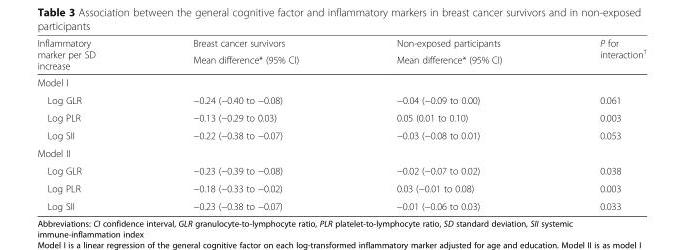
<table><thead><tr><td rowspan="2">Inflammatory marker per SD increase</td><td rowspan="2">Breast cancer survivors Mean difference* (95% CI)</td><td rowspan="2">Non-exposed participants Mean difference* (95% CI)</td><td rowspan="2">P for interaction<sup>†</sup></td></tr><tr></tr></thead><tbody><tr><td colspan="4">Model I</td></tr><tr><td>Log GLR</td><td>−0.24 (−0.40 to −0.08)</td><td>−0.04 (−0.09 to 0.00)</td><td>0.061</td></tr><tr><td>Log PLR</td><td>−0.13 (−0.29 to 0.03)</td><td>0.05 (0.01 to 0.10)</td><td>0.003</td></tr><tr><td>Log SII</td><td>−0.22 (−0.38 to −0.07)</td><td>−0.03 (−0.08 to 0.01)</td><td>0.053</td></tr><tr><td colspan="4">Model II</td></tr><tr><td>Log GLR</td><td>−0.23 (−0.39 to −0.08)</td><td>−0.02 (−0.07 to 0.02)</td><td>0.038</td></tr><tr><td>Log PLR</td><td>−0.18 (−0.33 to −0.02)</td><td>0.03 (−0.01 to 0.08)</td><td>0.003</td></tr><tr><td>Log SII</td><td>−0.23 (−0.38 to −0.07)</td><td>−0.01 (−0.06 to 0.03)</td><td>0.033</td></tr></tbody></table>